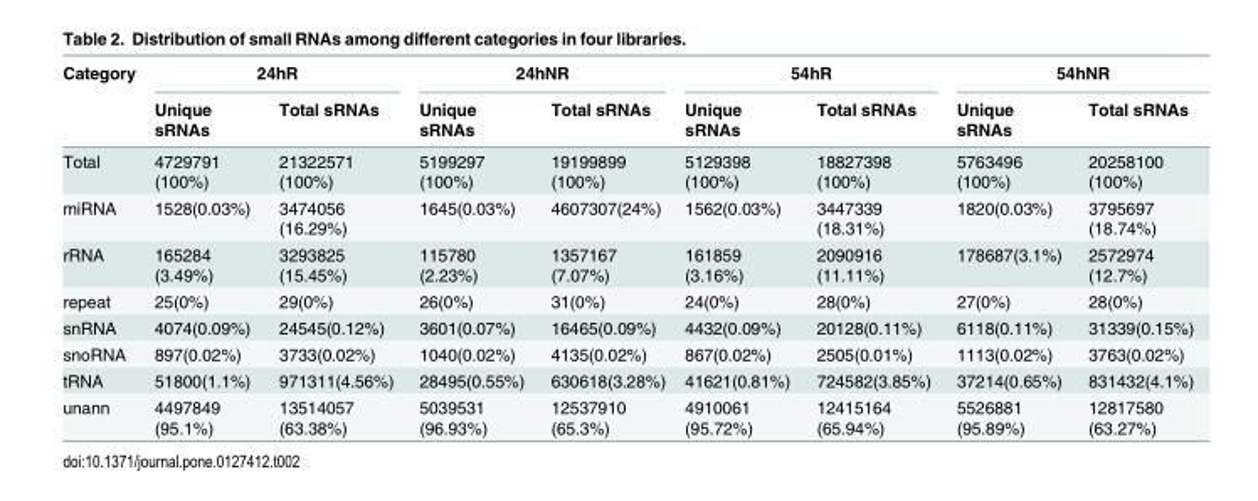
<table><thead><tr><td rowspan="2">Category</td><td colspan="2">24hR</td><td colspan="2">24hNR</td><td colspan="2">54hR</td><td colspan="2">54hNR</td></tr><tr><td>Unique sRNAs</td><td>Total sRNAs</td><td>Unique sRNAs</td><td>Total sRNAs</td><td>Unique sRNAs</td><td>Total sRNAs</td><td>Unique sRNAs</td><td>Total sRNAs</td></tr></thead><tbody><tr><td>Total</td><td>4729791 (100%)</td><td>21322571 (100%)</td><td>5199297 (100%)</td><td>19199899 (100%)</td><td>5129398 (100%)</td><td>18827398 (100%)</td><td>5763496 (100%)</td><td>20258100 (100%)</td></tr><tr><td>miRNA</td><td>1528(0.03%)</td><td>3474056 (16.29%)</td><td>1645(0.03%)</td><td>4607307(24%)</td><td>1562(0.03%)</td><td>3447339 (18.31%)</td><td>1820(0.03%)</td><td>3795697 (18.74%)</td></tr><tr><td>rRNA</td><td>165284 (3.49%)</td><td>3293825 (15.45%)</td><td>115780 (2.23%)</td><td>1357167 (7.07%)</td><td>161859 (3.16%)</td><td>2090916 (11.11%)</td><td>178687(3.1%)</td><td>2572974 (12.7%)</td></tr><tr><td>repeat</td><td>25(0%)</td><td>29(0%)</td><td>26(0%)</td><td>31(0%)</td><td>24(0%)</td><td>28(0%)</td><td>27(0%)</td><td>28(0%)</td></tr><tr><td>snRNA</td><td>4074(0.09%)</td><td>24545(0.12%)</td><td>3601(0.07%)</td><td>16465(0.09%)</td><td>4432(0.09%)</td><td>20128(0.11%)</td><td>6118(0.11%)</td><td>31339(0.15%)</td></tr><tr><td>snoRNA</td><td>897(0.02%)</td><td>3733(0.02%)</td><td>1040(0.02%)</td><td>4135(0.02%)</td><td>867(0.02%)</td><td>2505(0.01%)</td><td>1113(0.02%)</td><td>3763(0.02%)</td></tr><tr><td>tRNA</td><td>51800(1.1%)</td><td>971311(4.56%)</td><td>28495(0.55%)</td><td>630618(3.28%)</td><td>41621(0.81%)</td><td>724582(3.85%)</td><td>37214(0.65%)</td><td>831432(4.1%)</td></tr><tr><td>unann</td><td>4497849 (95.1%)</td><td>13514057 (63.38%)</td><td>5039531 (96.93%)</td><td>12537910 (65.3%)</td><td>4910061 (95.72%)</td><td>12415164 (65.94%)</td><td>5526881 (95.89%)</td><td>12817580 (63.27%)</td></tr></tbody></table>